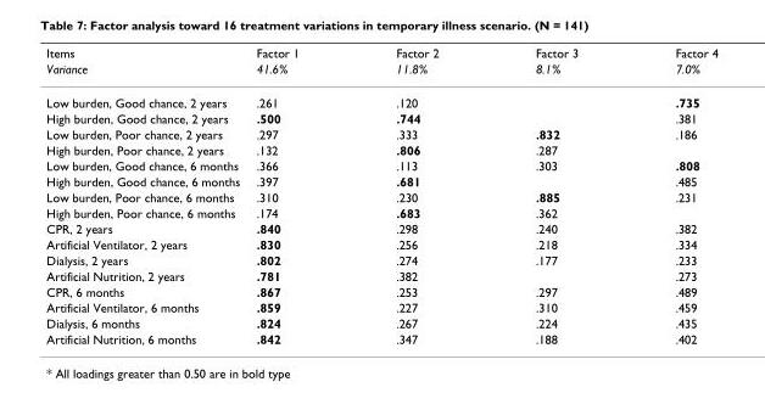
<table><thead><tr><td rowspan="2">Items Variance</td><td rowspan="2">Factor 1 41.6%</td><td rowspan="2">Factor 2 11.8%</td><td rowspan="2">Factor 3 8.1%</td><td rowspan="2">Factor 4 7.0%</td></tr><tr></tr></thead><tbody><tr><td>Low burden, Good chance, 2 years</td><td>.261</td><td>.120</td><td></td><td>.735</td></tr><tr><td>High burden, Good chance, 2 years</td><td>.500</td><td>.744</td><td></td><td>.381</td></tr><tr><td>Low burden, Poor chance, 2 years</td><td>.297</td><td>.333</td><td>.832</td><td>.186</td></tr><tr><td>High burden, Poor chance, 2 years</td><td>.132</td><td>.806</td><td>.287</td><td></td></tr><tr><td>Low burden, Good chance, 6 months</td><td>.366</td><td>.113</td><td>.303</td><td>.808</td></tr><tr><td>High burden, Good chance, 6 months</td><td>.397</td><td>.681</td><td></td><td>.485</td></tr><tr><td>Low burden, Poor chance, 6 months</td><td>.310</td><td>.230</td><td>.885</td><td>.231</td></tr><tr><td>High burden, Poor chance, 6 months</td><td>.174</td><td>.683</td><td>.362</td><td></td></tr><tr><td>CPR, 2 years</td><td>.840</td><td>.298</td><td>.240</td><td>.382</td></tr><tr><td>Artificial Ventilator, 2 years</td><td>.830</td><td>.256</td><td>.218</td><td>.334</td></tr><tr><td>Dialysis, 2 years</td><td>.802</td><td>.274</td><td>.177</td><td>.233</td></tr><tr><td>Artificial Nutrition, 2 years</td><td>.781</td><td>.382</td><td></td><td>.273</td></tr><tr><td>CPR, 6 months</td><td>.867</td><td>.253</td><td>.297</td><td>.489</td></tr><tr><td>Artificial Ventilator, 6 months</td><td>.859</td><td>.227</td><td>.310</td><td>.459</td></tr><tr><td>Dialysis, 6 months</td><td>.824</td><td>.267</td><td>.224</td><td>.435</td></tr><tr><td>Artificial Nutrition, 6 months</td><td>.842</td><td>.347</td><td>.188</td><td>.402</td></tr></tbody></table>